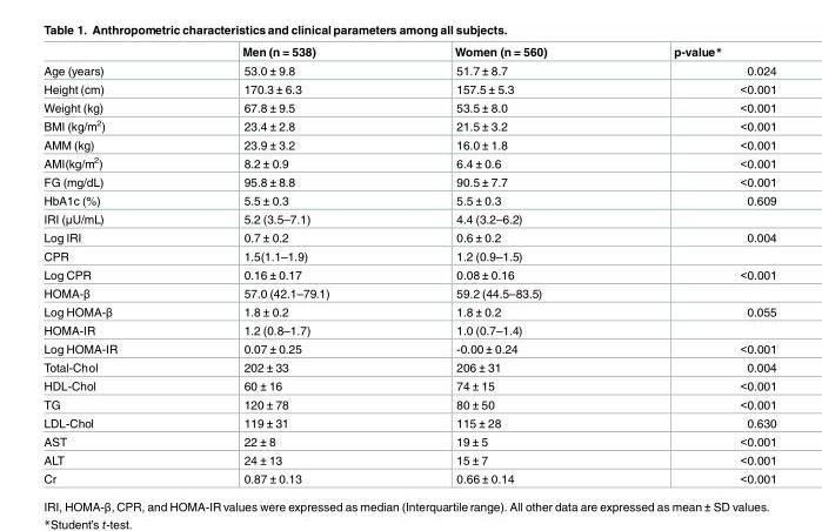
<table><thead><tr><td></td><td>Men (n = 538)</td><td>Women (n = 560)</td><td>p-value*</td></tr></thead><tbody><tr><td>Age (years)</td><td>53.0 ± 9.8</td><td>51.7 ± 8.7</td><td>0.024</td></tr><tr><td>Height (cm)</td><td>170.3 ± 6.3</td><td>157.5 ± 5.3</td><td>&lt;0.001</td></tr><tr><td>Weight (kg)</td><td>67.8 ± 9.5</td><td>53.5 ± 8.0</td><td>&lt;0.001</td></tr><tr><td>BMI (kg/m<sup>2</sup>)</td><td>23.4 ± 2.8</td><td>21.5 ± 3.2</td><td>&lt;0.001</td></tr><tr><td>AMM (kg)</td><td>23.9 ± 3.2</td><td>16.0 ± 1.8</td><td>&lt;0.001</td></tr><tr><td>AMI(kg/m<sup>2</sup>)</td><td>8.2 ± 0.9</td><td>6.4 ± 0.6</td><td>&lt;0.001</td></tr><tr><td>FG (mg/dL)</td><td>95.8 ± 8.8</td><td>90.5 ± 7.7</td><td>&lt;0.001</td></tr><tr><td>HbA1c (%)</td><td>5.5 ± 0.3</td><td>5.5 ± 0.3</td><td>0.609</td></tr><tr><td>IRI (μU/mL)</td><td>5.2 (3.5–7.1)</td><td>4.4 (3.2–6.2)</td><td></td></tr><tr><td>Log IRI</td><td>0.7 ± 0.2</td><td>0.6 ± 0.2</td><td>0.004</td></tr><tr><td>CPR</td><td>1.5(1.1–1.9)</td><td>1.2 (0.9–1.5)</td><td></td></tr><tr><td>Log CPR</td><td>0.16 ± 0.17</td><td>0.08 ± 0.16</td><td>&lt;0.001</td></tr><tr><td>HOMA-β</td><td>57.0 (42.1–79.1)</td><td>59.2 (44.5–83.5)</td><td></td></tr><tr><td>Log HOMA-β</td><td>1.8 ± 0.2</td><td>1.8 ± 0.2</td><td>0.055</td></tr><tr><td>HOMA-IR</td><td>1.2 (0.8–1.7)</td><td>1.0 (0.7–1.4)</td><td></td></tr><tr><td>Log HOMA-IR</td><td>0.07 ± 0.25</td><td>-0.00 ± 0.24</td><td>&lt;0.001</td></tr><tr><td>Total-Chol</td><td>202 ± 33</td><td>206 ± 31</td><td>0.004</td></tr><tr><td>HDL-Chol</td><td>60 ± 16</td><td>74 ± 15</td><td>&lt;0.001</td></tr><tr><td>TG</td><td>120 ± 78</td><td>80 ± 50</td><td>&lt;0.001</td></tr><tr><td>LDL-Chol</td><td>119 ± 31</td><td>115 ± 28</td><td>0.630</td></tr><tr><td>AST</td><td>22 ± 8</td><td>19 ± 5</td><td>&lt;0.001</td></tr><tr><td>ALT</td><td>24 ± 13</td><td>15 ± 7</td><td>&lt;0.001</td></tr><tr><td>Cr</td><td>0.87 ± 0.13</td><td>0.66 ± 0.14</td><td>&lt;0.001</td></tr></tbody></table>